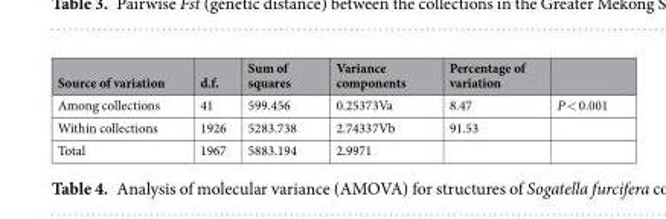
<table><thead><tr><td>Source of variation</td><td>d.f.</td><td>Sum of squares</td><td>Variance components</td><td>Percentage of variation</td><td></td></tr></thead><tbody><tr><td>Among collections</td><td>41</td><td>599.456</td><td>0.25373Va</td><td>8.47</td><td>P &lt; 0.001</td></tr><tr><td>Within collections</td><td>1926</td><td>5283.738</td><td>2.74337Vb</td><td>91.53</td><td></td></tr><tr><td>Total</td><td>1967</td><td>5883.194</td><td>2.9971</td><td></td><td></td></tr></tbody></table>